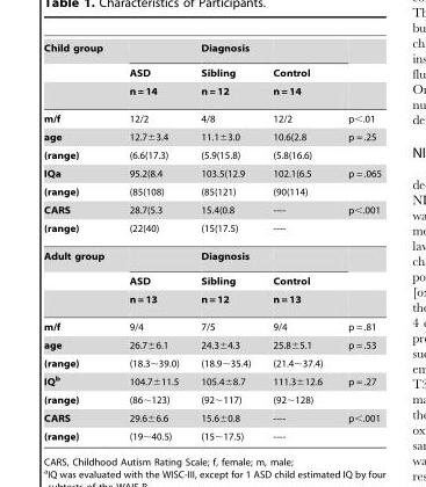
<table><tbody><tr><td rowspan="3">Child group</td><td></td><td>Diagnosis</td><td></td><td></td></tr><tr><td>ASD</td><td>Sibling</td><td>Control</td><td></td></tr><tr><td>n = 14</td><td>n = 12</td><td>n = 14</td><td></td></tr><tr><td>m/f</td><td>12/2</td><td>4/8</td><td>12/2</td><td>p&lt;.01</td></tr><tr><td>age</td><td>12.7±3.4</td><td>11.1±3.0</td><td>10.6(2.8</td><td>p = .25</td></tr><tr><td>(range)</td><td>(6.6(17.3)</td><td>(5.9(15.8)</td><td>(5.8(16.6)</td><td></td></tr><tr><td>IQa</td><td>95.2(8.4</td><td>103.5(12.9</td><td>102.1(6.5</td><td>p = .065</td></tr><tr><td>(range)</td><td>(85(108)</td><td>(85(121)</td><td>(90(114)</td><td></td></tr><tr><td>CARS</td><td>28.7(5.3</td><td>15.4(0.8</td><td>----</td><td>p&lt;.001</td></tr><tr><td>(range)</td><td>(22(40)</td><td>(15(17.5)</td><td>----</td><td></td></tr><tr><td rowspan="3">Adult group</td><td></td><td>Diagnosis</td><td></td><td></td></tr><tr><td>ASD</td><td>Sibling</td><td>Control</td><td></td></tr><tr><td>n = 13</td><td>n = 12</td><td>n = 13</td><td></td></tr><tr><td>m/f</td><td>9/4</td><td>7/5</td><td>9/4</td><td>p = .81</td></tr><tr><td>age</td><td>26.7±6.1</td><td>24.3±4.3</td><td>25.8±5.1</td><td>p = .53</td></tr><tr><td>(range)</td><td>(18.3∼39.0)</td><td>(18.9∼35.4)</td><td>(21.4∼37.4)</td><td></td></tr><tr><td>IQb</td><td>104.7±11.5</td><td>105.4±8.7</td><td>111.3±12.6</td><td>p = .27</td></tr><tr><td>(range)</td><td>(86∼123)</td><td>(92∼117)</td><td>(92∼128)</td><td></td></tr><tr><td>CARS</td><td>29.6±6.6</td><td>15.6±0.8</td><td>----</td><td>p&lt;.001</td></tr><tr><td>(range)</td><td>(19∼40.5)</td><td>(15∼17.5)</td><td>----</td><td></td></tr></tbody></table>